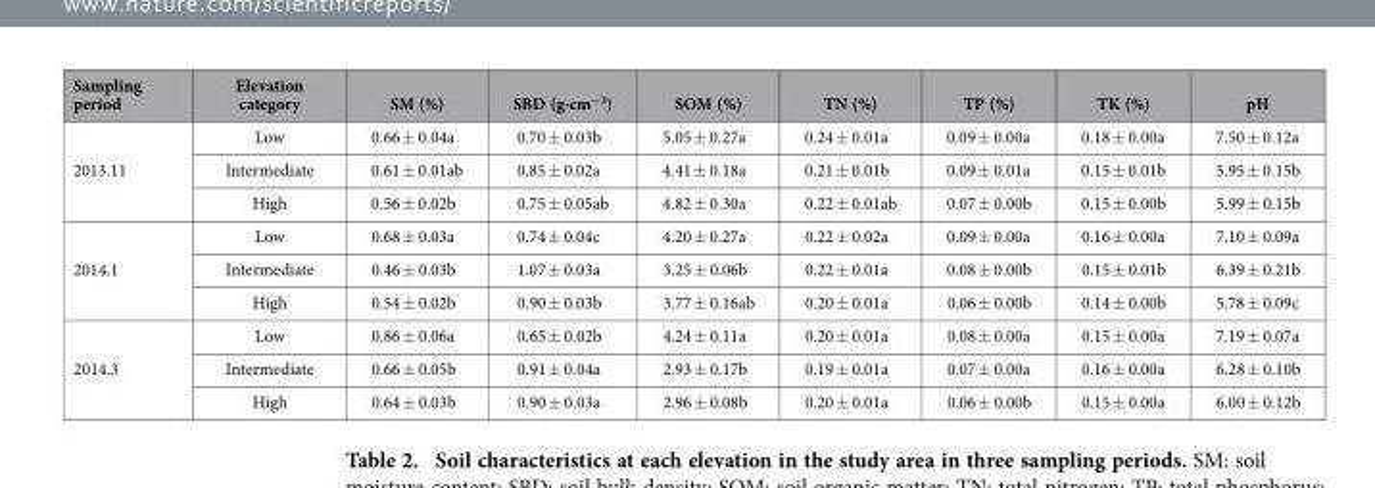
<table><thead><tr><td>Sampling period</td><td>Elevation category</td><td>SM (%)</td><td>SBD (g·cm<sup>−3</sup>)</td><td>SOM (%)</td><td>TN (%)</td><td>TP (%)</td><td>TK (%)</td><td>pH</td></tr></thead><tbody><tr><td rowspan="3">2013.11</td><td>Low</td><td>0.66 ± 0.04a</td><td>0.70 ± 0.03b</td><td>5.05 ± 0.27a</td><td>0.24 ± 0.01a</td><td>0.09 ± 0.00a</td><td>0.18 ± 0.00a</td><td>7.50 ± 0.12a</td></tr><tr><td>Intermediate</td><td>0.61 ± 0.01ab</td><td>0.85 ± 0.02a</td><td>4.41 ± 0.18a</td><td>0.21 ± 0.01b</td><td>0.09 ± 0.01a</td><td>0.15 ± 0.01b</td><td>5.95 ± 0.15b</td></tr><tr><td>High</td><td>0.56 ± 0.02b</td><td>0.75 ± 0.05ab</td><td>4.82 ± 0.30a</td><td>0.22 ± 0.01ab</td><td>0.07 ± 0.00b</td><td>0.15 ± 0.00b</td><td>5.99 ± 0.15b</td></tr><tr><td rowspan="3">2014.1</td><td>Low</td><td>0.68 ± 0.03a</td><td>0.74 ± 0.04c</td><td>4.20 ± 0.27a</td><td>0.22 ± 0.02a</td><td>0.09 ± 0.00a</td><td>0.16 ± 0.00a</td><td>7.10 ± 0.09a</td></tr><tr><td>Intermediate</td><td>0.46 ± 0.03b</td><td>1.07 ± 0.03a</td><td>3.25 ± 0.06b</td><td>0.22 ± 0.01a</td><td>0.08 ± 0.00b</td><td>0.15 ± 0.01b</td><td>6.39 ± 0.21b</td></tr><tr><td>High</td><td>0.54 ± 0.02b</td><td>0.90 ± 0.03b</td><td>3.77 ± 0.16ab</td><td>0.20 ± 0.01a</td><td>0.06 ± 0.00b</td><td>0.14 ± 0.00b</td><td>5.78 ± 0.09c</td></tr><tr><td rowspan="3">2014.3</td><td>Low</td><td>0.86 ± 0.06a</td><td>0.65 ± 0.02b</td><td>4.24 ± 0.11a</td><td>0.20 ± 0.01a</td><td>0.08 ± 0.00a</td><td>0.15 ± 0.00a</td><td>7.19 ± 0.07a</td></tr><tr><td>Intermediate</td><td>0.66 ± 0.05b</td><td>0.91 ± 0.04a</td><td>2.93 ± 0.17b</td><td>0.19 ± 0.01a</td><td>0.07 ± 0.00a</td><td>0.16 ± 0.00a</td><td>6.28 ± 0.10b</td></tr><tr><td>High</td><td>0.64 ± 0.03b</td><td>0.90 ± 0.03a</td><td>2.96 ± 0.08b</td><td>0.20 ± 0.01a</td><td>0.06 ± 0.00b</td><td>0.15 ± 0.00a</td><td>6.00 ± 0.12b</td></tr></tbody></table>